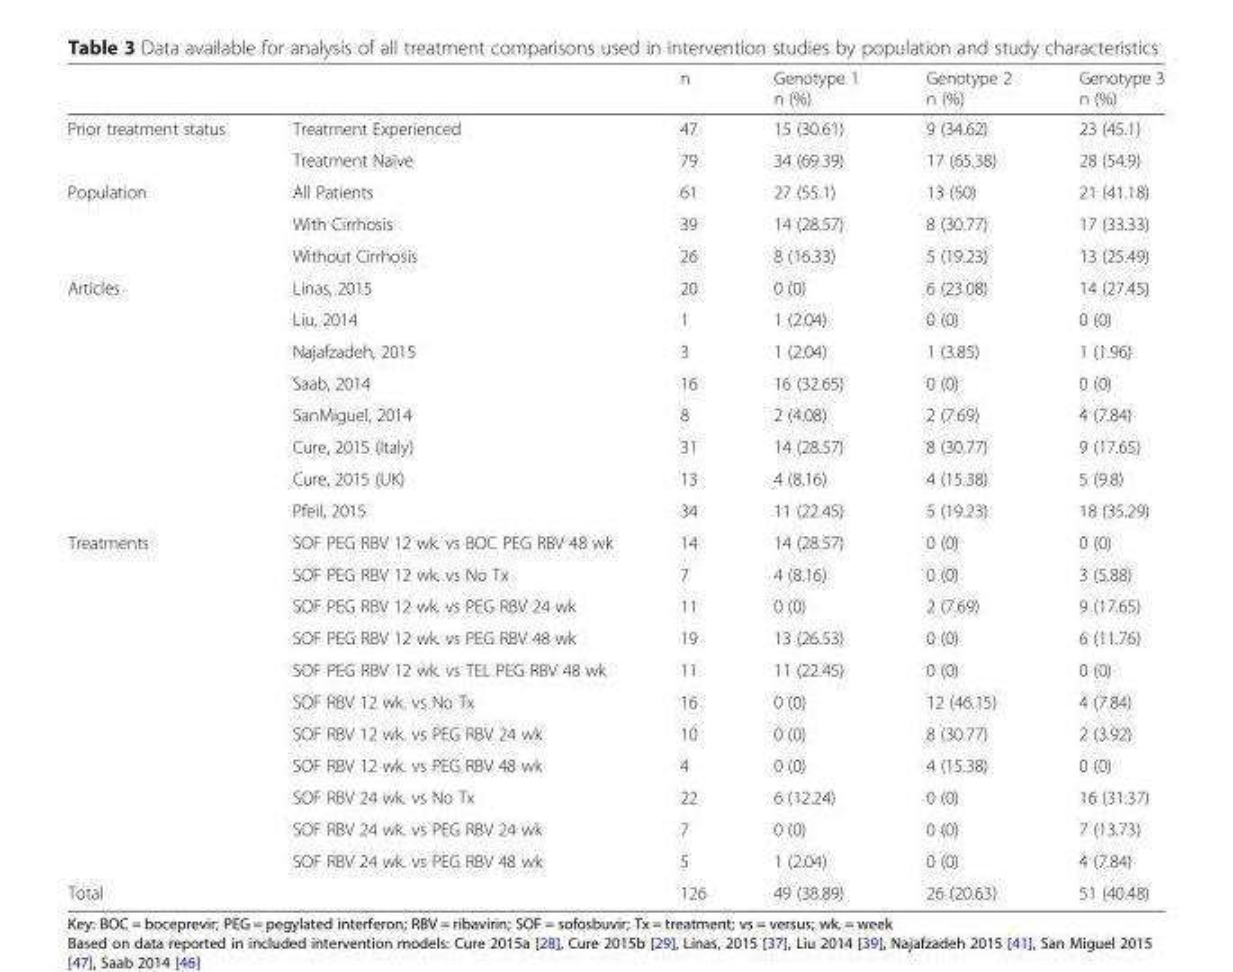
<table><thead><tr><td></td><td></td><td>n</td><td>Genotype 1 n (%)</td><td>Genotype 2 n (%)</td><td>Genotype 3 n (%)</td></tr></thead><tbody><tr><td rowspan="2">Prior treatment status</td><td>Treatment Experienced</td><td>47</td><td>15 (30.61)</td><td>9 (34.62)</td><td>23 (45.1)</td></tr><tr><td>Treatment Naïve</td><td>79</td><td>34 (69.39)</td><td>17 (65.38)</td><td>28 (54.9)</td></tr><tr><td rowspan="3">Population</td><td>All Patients</td><td>61</td><td>27 (55.1)</td><td>13 (50)</td><td>21 (41.18)</td></tr><tr><td>With Cirrhosis</td><td>39</td><td>14 (28.57)</td><td>8 (30.77)</td><td>17 (33.33)</td></tr><tr><td>Without Cirrhosis</td><td>26</td><td>8 (16.33)</td><td>5 (19.23)</td><td>13 (25.49)</td></tr><tr><td rowspan="8">Articles</td><td>Linas, 2015</td><td>20</td><td>0 (0)</td><td>6 (23.08)</td><td>14 (27.45)</td></tr><tr><td>Liu, 2014</td><td>1</td><td>1 (2.04)</td><td>0 (0)</td><td>0 (0)</td></tr><tr><td>Najafzadeh, 2015</td><td>3</td><td>1 (2.04)</td><td>1 (3.85)</td><td>1 (1.96)</td></tr><tr><td>Saab, 2014</td><td>16</td><td>16 (32.65)</td><td>0 (0)</td><td>0 (0)</td></tr><tr><td>SanMiguel, 2014</td><td>8</td><td>2 (4.08)</td><td>2 (7.69)</td><td>4 (7.84)</td></tr><tr><td>Cure, 2015 (Italy)</td><td>31</td><td>14 (28.57)</td><td>8 (30.77)</td><td>9 (17.65)</td></tr><tr><td>Cure, 2015 (UK)</td><td>13</td><td>4 (8.16)</td><td>4 (15.38)</td><td>5 (9.8)</td></tr><tr><td>Pfeil, 2015</td><td>34</td><td>11 (22.45)</td><td>5 (19.23)</td><td>18 (35.29)</td></tr><tr><td rowspan="11">Treatments</td><td>SOF PEG RBV 12 wk. vs BOC PEG RBV 48 wk</td><td>14</td><td>14 (28.57)</td><td>0 (0)</td><td>0 (0)</td></tr><tr><td>SOF PEG RBV 12 wk. vs No Tx</td><td>7</td><td>4 (8.16)</td><td>0 (0)</td><td>3 (5.88)</td></tr><tr><td>SOF PEG RBV 12 wk. vs PEG RBV 24 wk</td><td>11</td><td>0 (0)</td><td>2 (7.69)</td><td>9 (17.65)</td></tr><tr><td>SOF PEG RBV 12 wk. vs PEG RBV 48 wk</td><td>19</td><td>13 (26.53)</td><td>0 (0)</td><td>6 (11.76)</td></tr><tr><td>SOF PEG RBV 12 wk. vs TEL PEG RBV 48 wk</td><td>11</td><td>11 (22.45)</td><td>0 (0)</td><td>0 (0)</td></tr><tr><td>SOF RBV 12 wk. vs No Tx</td><td>16</td><td>0 (0)</td><td>12 (46.15)</td><td>4 (7.84)</td></tr><tr><td>SOF RBV 12 wk. vs PEG RBV 24 wk</td><td>10</td><td>0 (0)</td><td>8 (30.77)</td><td>2 (3.92)</td></tr><tr><td>SOF RBV 12 wk. vs PEG RBV 48 wk</td><td>4</td><td>0 (0)</td><td>4 (15.38)</td><td>0 (0)</td></tr><tr><td>SOF RBV 24 wk. vs No Tx</td><td>22</td><td>6 (12.24)</td><td>0 (0)</td><td>16 (31.37)</td></tr><tr><td>SOF RBV 24 wk. vs PEG RBV 24 wk</td><td>7</td><td>0 (0)</td><td>0 (0)</td><td>7 (13.73)</td></tr><tr><td>SOF RBV 24 wk. vs PEG RBV 48 wk</td><td>5</td><td>1 (2.04)</td><td>0 (0)</td><td>4 (7.84)</td></tr><tr><td>Total</td><td></td><td>126</td><td>49 (38.89)</td><td>26 (20.63)</td><td>51 (40.48)</td></tr></tbody></table>